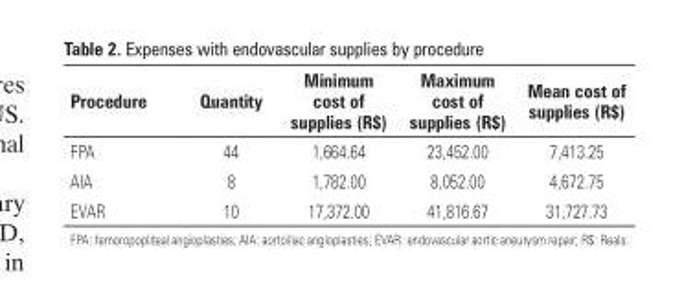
<table><thead><tr><td>Procedure</td><td>Quantity</td><td>minimum cost of supplies (R$)</td><td>maximum cost of supplies (R$)</td><td>mean cost of supplies (R$)</td></tr></thead><tbody><tr><td>FPA</td><td>44</td><td>1,664.64</td><td>23,452.00</td><td>7,413.25</td></tr><tr><td>AIA</td><td>8</td><td>1,782.00</td><td>8,052.00</td><td>4,672.75</td></tr><tr><td>EVAR</td><td>10</td><td>17,372.00</td><td>41,816.67</td><td>31,727.73</td></tr></tbody></table>